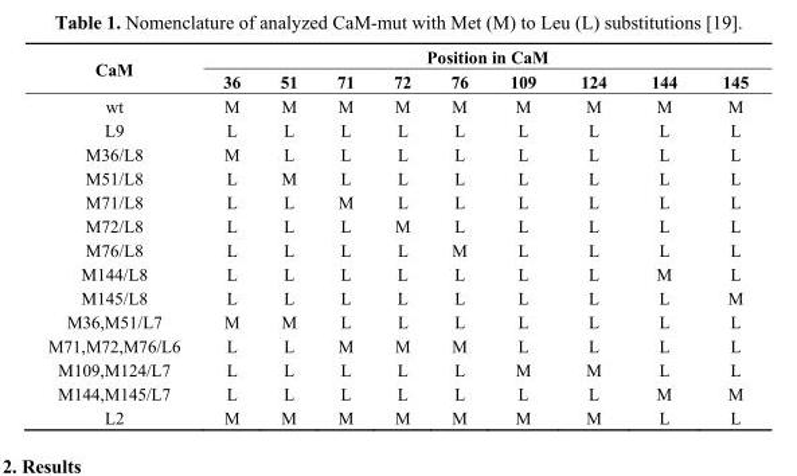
<table><thead><tr><td rowspan="2">CaM</td><td colspan="9">Position in CaM</td></tr><tr><td>36</td><td>51</td><td>71</td><td>72</td><td>76</td><td>109</td><td>124</td><td>144</td><td>145</td></tr></thead><tbody><tr><td>wt</td><td>M</td><td>M</td><td>M</td><td>M</td><td>M</td><td>M</td><td>M</td><td>M</td><td>M</td></tr><tr><td>L9</td><td>L</td><td>L</td><td>L</td><td>L</td><td>L</td><td>L</td><td>L</td><td>L</td><td>L</td></tr><tr><td>M36/L8</td><td>M</td><td>L</td><td>L</td><td>L</td><td>L</td><td>L</td><td>L</td><td>L</td><td>L</td></tr><tr><td>M51/L8</td><td>L</td><td>M</td><td>L</td><td>L</td><td>L</td><td>L</td><td>L</td><td>L</td><td>L</td></tr><tr><td>M71/L8</td><td>L</td><td>L</td><td>M</td><td>L</td><td>L</td><td>L</td><td>L</td><td>L</td><td>L</td></tr><tr><td>M72/L8</td><td>L</td><td>L</td><td>L</td><td>M</td><td>L</td><td>L</td><td>L</td><td>L</td><td>L</td></tr><tr><td>M76/L8</td><td>L</td><td>L</td><td>L</td><td>L</td><td>M</td><td>L</td><td>L</td><td>L</td><td>L</td></tr><tr><td>M144/L8</td><td>L</td><td>L</td><td>L</td><td>L</td><td>L</td><td>L</td><td>L</td><td>M</td><td>L</td></tr><tr><td>M145/L8</td><td>L</td><td>L</td><td>L</td><td>L</td><td>L</td><td>L</td><td>L</td><td>L</td><td>M</td></tr><tr><td>M36,M51/L7</td><td>M</td><td>M</td><td>L</td><td>L</td><td>L</td><td>L</td><td>L</td><td>L</td><td>L</td></tr><tr><td>M71,M72,M76/L6</td><td>L</td><td>L</td><td>M</td><td>M</td><td>M</td><td>L</td><td>L</td><td>L</td><td>L</td></tr><tr><td>M109,M124/L7</td><td>L</td><td>L</td><td>L</td><td>L</td><td>L</td><td>M</td><td>M</td><td>L</td><td>L</td></tr><tr><td>M144,M145/L7</td><td>L</td><td>L</td><td>L</td><td>L</td><td>L</td><td>L</td><td>L</td><td>M</td><td>M</td></tr><tr><td>L2</td><td>M</td><td>M</td><td>M</td><td>M</td><td>M</td><td>M</td><td>M</td><td>L</td><td>L</td></tr></tbody></table>